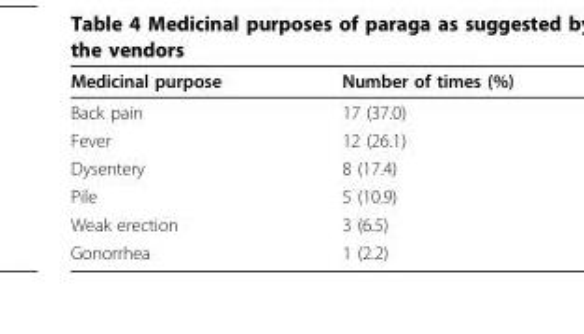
<table><thead><tr><td>Medicinal purpose</td><td>Number of times (%)</td></tr></thead><tbody><tr><td>Back pain</td><td>17 (37.0)</td></tr><tr><td>Fever</td><td>12 (26.1)</td></tr><tr><td>Dysentery</td><td>8 (17.4)</td></tr><tr><td>Pile</td><td>5 (10.9)</td></tr><tr><td>Weak erection</td><td>3 (6.5)</td></tr><tr><td>Gonorrhea</td><td>1 (2.2)</td></tr></tbody></table>